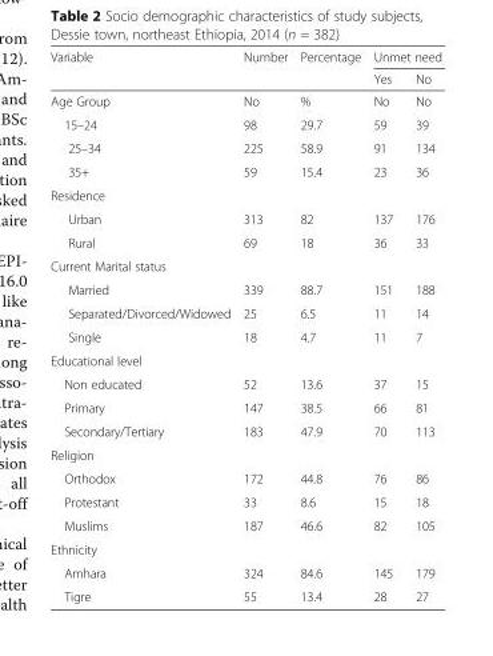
<table><thead><tr><td rowspan="2">Variable</td><td rowspan="2">Number</td><td rowspan="2">Percentage</td><td colspan="2">Unmet need</td></tr><tr><td>Yes</td><td>No</td></tr></thead><tbody><tr><td>Age Group</td><td>No</td><td>%</td><td>No</td><td>No</td></tr><tr><td>15–24</td><td>98</td><td>29.7</td><td>59</td><td>39</td></tr><tr><td>25–34</td><td>225</td><td>58.9</td><td>91</td><td>134</td></tr><tr><td>35+</td><td>59</td><td>15.4</td><td>23</td><td>36</td></tr><tr><td colspan="5">Residence</td></tr><tr><td>Urban</td><td>313</td><td>82</td><td>137</td><td>176</td></tr><tr><td>Rural</td><td>69</td><td>18</td><td>36</td><td>33</td></tr><tr><td colspan="5">Current Marital status</td></tr><tr><td>Married</td><td>339</td><td>88.7</td><td>151</td><td>188</td></tr><tr><td>Separated/Divorced/Widowed</td><td>25</td><td>6.5</td><td>11</td><td>14</td></tr><tr><td>Single</td><td>18</td><td>4.7</td><td>11</td><td>7</td></tr><tr><td colspan="5">Educational level</td></tr><tr><td>Non educated</td><td>52</td><td>13.6</td><td>37</td><td>15</td></tr><tr><td>Primary</td><td>147</td><td>38.5</td><td>66</td><td>81</td></tr><tr><td>Secondary/Tertiary</td><td>183</td><td>47.9</td><td>70</td><td>113</td></tr><tr><td colspan="5">Religion</td></tr><tr><td>Orthodox</td><td>172</td><td>44.8</td><td>76</td><td>86</td></tr><tr><td>Protestant</td><td>33</td><td>8.6</td><td>15</td><td>18</td></tr><tr><td>Muslims</td><td>187</td><td>46.6</td><td>82</td><td>105</td></tr><tr><td colspan="5">Ethnicity</td></tr><tr><td>Amhara</td><td>324</td><td>84.6</td><td>145</td><td>179</td></tr><tr><td>Tigre</td><td>55</td><td>13.4</td><td>28</td><td>27</td></tr></tbody></table>